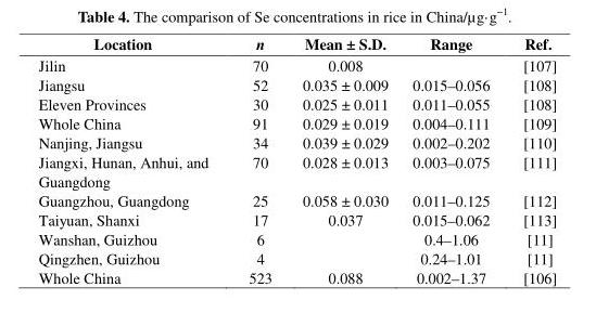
<table><thead><tr><td>Location</td><td>n</td><td>Mean ± S.D.</td><td>Range</td><td>Ref.</td></tr></thead><tbody><tr><td>Jilin</td><td>70</td><td>0.008</td><td></td><td>[107]</td></tr><tr><td>Jiangsu</td><td>52</td><td>0.035 ± 0.009</td><td>0.015–0.056</td><td>[108]</td></tr><tr><td>Eleven Provinces</td><td>30</td><td>0.025 ± 0.011</td><td>0.011–0.055</td><td>[108]</td></tr><tr><td>Whole China</td><td>91</td><td>0.029 ± 0.019</td><td>0.004–0.111</td><td>[109]</td></tr><tr><td>Nanjing, Jiangsu</td><td>34</td><td>0.039 ± 0.029</td><td>0.002–0.202</td><td>[110]</td></tr><tr><td>Jiangxi, Hunan, Anhui, and Guangdong</td><td>70</td><td>0.028 ± 0.013</td><td>0.003–0.075</td><td>[111]</td></tr><tr><td>Guangzhou, Guangdong</td><td>25</td><td>0.058 ± 0.030</td><td>0.011–0.125</td><td>[112]</td></tr><tr><td>Taiyuan, Shanxi</td><td>17</td><td>0.037</td><td>0.015–0.062</td><td>[113]</td></tr><tr><td>Wanshan, Guizhou</td><td>6</td><td></td><td>0.4–1.06</td><td>[11]</td></tr><tr><td>Qingzhen, Guizhou</td><td>4</td><td></td><td>0.24–1.01</td><td>[11]</td></tr><tr><td>Whole China</td><td>523</td><td>0.088</td><td>0.002–1.37</td><td>[106]</td></tr></tbody></table>